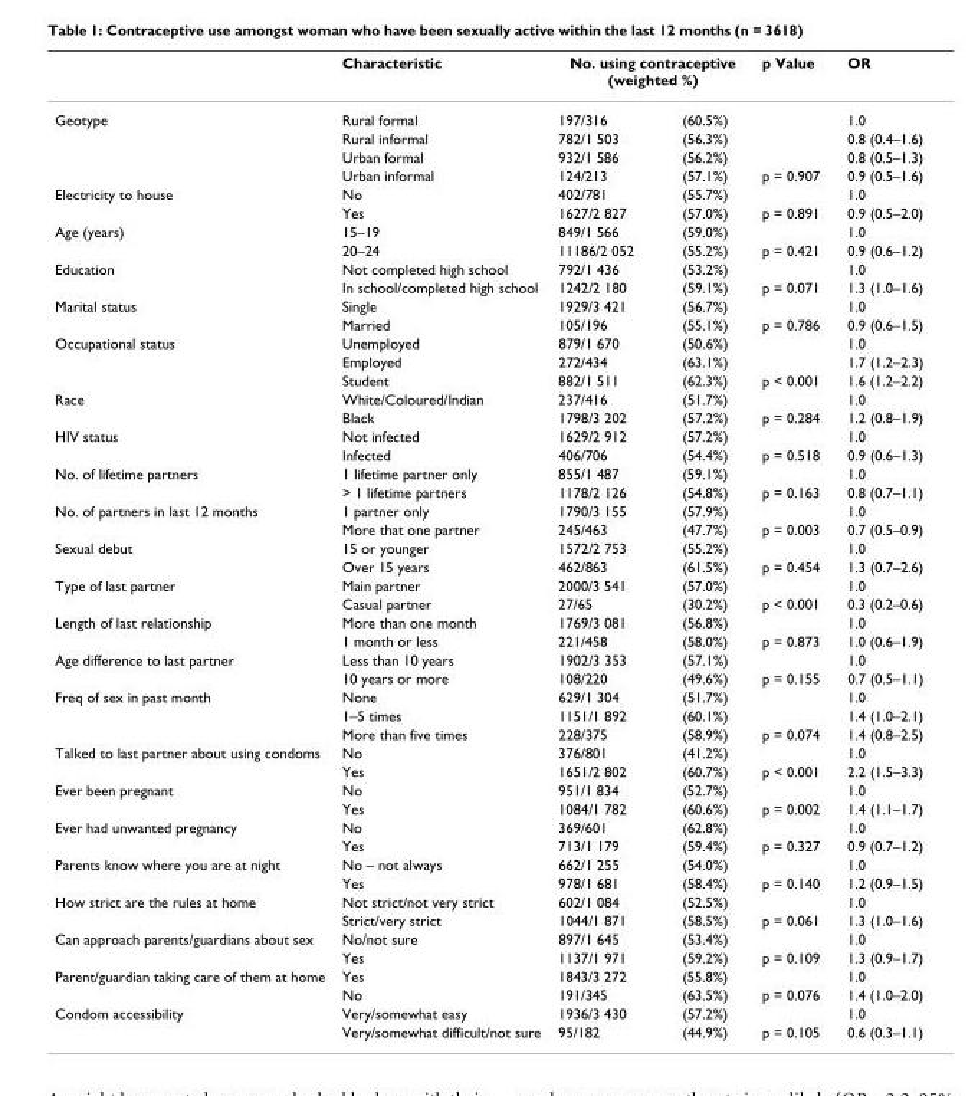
<table><thead><tr><td rowspan="2">Geotype</td><td rowspan="2">Characteristic Rural formal</td><td colspan="2">No. using contraceptive (weighted %)</td><td rowspan="2">p Value</td><td rowspan="2">OR 1.0</td></tr><tr><td>197/316</td><td>(60.5%)</td></tr></thead><tbody><tr><td></td><td>Rural informal</td><td>782/1 503</td><td>(56.3%)</td><td></td><td>0.8 (0.4–1.6)</td></tr><tr><td></td><td>Urban formal</td><td>932/1 586</td><td>(56.2%)</td><td></td><td>0.8 (0.5–1.3)</td></tr><tr><td></td><td>Urban informal</td><td>124/213</td><td>(57.1%)</td><td>p = 0.907</td><td>0.9 (0.5–1.6)</td></tr><tr><td rowspan="2">Electricity to house</td><td>No</td><td>402/781</td><td>(55.7%)</td><td></td><td>1.0</td></tr><tr><td>Yes</td><td>1627/2 827</td><td>(57.0%)</td><td>p = 0.891</td><td>0.9 (0.5–2.0)</td></tr><tr><td rowspan="2">Age (years)</td><td>15–19</td><td>849/1 566</td><td>(59.0%)</td><td></td><td>1.0</td></tr><tr><td>20–24</td><td>11186/2 052</td><td>(55.2%)</td><td>p = 0.421</td><td>0.9 (0.6–1.2)</td></tr><tr><td rowspan="2">Education</td><td>Not completed high school</td><td>792/1 436</td><td>(53.2%)</td><td></td><td>1.0</td></tr><tr><td>In school/completed high school</td><td>1242/2 180</td><td>(59.1%)</td><td>p = 0.071</td><td>1.3 (1.0–1.6)</td></tr><tr><td rowspan="2">Marital status</td><td>Single</td><td>1929/3 421</td><td>(56.7%)</td><td></td><td>1.0</td></tr><tr><td>Married</td><td>105/196</td><td>(55.1%)</td><td>p = 0.786</td><td>0.9 (0.6–1.5)</td></tr><tr><td rowspan="3">Occupational status</td><td>Unemployed</td><td>879/1 670</td><td>(50.6%)</td><td></td><td>1.0</td></tr><tr><td>Employed</td><td>272/434</td><td>(63.1%)</td><td></td><td>1.7 (1.2–2.3)</td></tr><tr><td>Student</td><td>882/1 511</td><td>(62.3%)</td><td>p &lt; 0.001</td><td>1.6 (1.2–2.2)</td></tr><tr><td rowspan="2">Race</td><td>White/Coloured/Indian</td><td>237/416</td><td>(51.7%)</td><td></td><td>1.0</td></tr><tr><td>Black</td><td>1798/3 202</td><td>(57.2%)</td><td>p = 0.284</td><td>1.2 (0.8–1.9)</td></tr><tr><td rowspan="2">HIV status</td><td>Not infected</td><td>1629/2 912</td><td>(57.2%)</td><td></td><td>1.0</td></tr><tr><td>Infected</td><td>406/706</td><td>(54.4%)</td><td>p = 0.518</td><td>0.9 (0.6–1.3)</td></tr><tr><td rowspan="2">No. of lifetime partners</td><td>1 lifetime partner only</td><td>855/1 487</td><td>(59.1%)</td><td></td><td>1.0</td></tr><tr><td>&gt; 1 lifetime partners</td><td>1178/2 126</td><td>(54.8%)</td><td>p = 0.163</td><td>0.8 (0.7–1.1)</td></tr><tr><td rowspan="2">No. of partners in last 12 months</td><td>1 partner only</td><td>1790/3 155</td><td>(57.9%)</td><td></td><td>1.0</td></tr><tr><td>More that one partner</td><td>245/463</td><td>(47.7%)</td><td>p = 0.003</td><td>0.7 (0.5–0.9)</td></tr><tr><td rowspan="2">Sexual debut</td><td>15 or younger</td><td>1572/2 753</td><td>(55.2%)</td><td></td><td>1.0</td></tr><tr><td>Over 15 years</td><td>462/863</td><td>(61.5%)</td><td>p = 0.454</td><td>1.3 (0.7–2.6)</td></tr><tr><td rowspan="2">Type of last partner</td><td>Main partner</td><td>2000/3 541</td><td>(57.0%)</td><td></td><td>1.0</td></tr><tr><td>Casual partner</td><td>27/65</td><td>(30.2%)</td><td>p &lt; 0.001</td><td>0.3 (0.2–0.6)</td></tr><tr><td rowspan="2">Length of last relationship</td><td>More than one month</td><td>1769/3 081</td><td>(56.8%)</td><td></td><td>1.0</td></tr><tr><td>1 month or less</td><td>221/458</td><td>(58.0%)</td><td>p = 0.873</td><td>1.0 (0.6–1.9)</td></tr><tr><td rowspan="2">Age difference to last partner</td><td>Less than 10 years</td><td>1902/3 353</td><td>(57.1%)</td><td></td><td>1.0</td></tr><tr><td>10 years or more</td><td>108/220</td><td>(49.6%)</td><td>p = 0.155</td><td>0.7 (0.5–1.1)</td></tr><tr><td rowspan="3">Freq of sex in past month</td><td>None</td><td>629/1 304</td><td>(51.7%)</td><td></td><td>1.0</td></tr><tr><td>1–5 times</td><td>1151/1 892</td><td>(60.1%)</td><td></td><td>1.4 (1.0–2.1)</td></tr><tr><td>More than five times</td><td>228/375</td><td>(58.9%)</td><td>p = 0.074</td><td>1.4 (0.8–2.5)</td></tr><tr><td rowspan="2">Talked to last partner about using condoms</td><td>No</td><td>376/801</td><td>(41.2%)</td><td></td><td>1.0</td></tr><tr><td>Yes</td><td>1651/2 802</td><td>(60.7%)</td><td>p &lt; 0.001</td><td>2.2 (1.5–3.3)</td></tr><tr><td rowspan="2">Ever been pregnant</td><td>No</td><td>951/1 834</td><td>(52.7%)</td><td></td><td>1.0</td></tr><tr><td>Yes</td><td>1084/1 782</td><td>(60.6%)</td><td>p = 0.002</td><td>1.4 (1.1–1.7)</td></tr><tr><td rowspan="2">Ever had unwanted pregnancy</td><td>No</td><td>369/601</td><td>(62.8%)</td><td></td><td>1.0</td></tr><tr><td>Yes</td><td>713/1 179</td><td>(59.4%)</td><td>p = 0.327</td><td>0.9 (0.7–1.2)</td></tr><tr><td rowspan="2">Parents know where you are at night</td><td>No – not always</td><td>662/1 255</td><td>(54.0%)</td><td></td><td>1.0</td></tr><tr><td>Yes</td><td>978/1 681</td><td>(58.4%)</td><td>p = 0.140</td><td>1.2 (0.9–1.5)</td></tr><tr><td rowspan="2">How strict are the rules at home</td><td>Not strict/not very strict</td><td>602/1 084</td><td>(52.5%)</td><td></td><td>1.0</td></tr><tr><td>Strict/very strict</td><td>1044/1 871</td><td>(58.5%)</td><td>p = 0.061</td><td>1.3 (1.0–1.6)</td></tr><tr><td rowspan="2">Can approach parents/guardians about sex</td><td>No/not sure</td><td>897/1 645</td><td>(53.4%)</td><td></td><td>1.0</td></tr><tr><td>Yes</td><td>1137/1 971</td><td>(59.2%)</td><td>p = 0.109</td><td>1.3 (0.9–1.7)</td></tr><tr><td rowspan="2">Parent/guardian taking care of them at home</td><td>Yes</td><td>1843/3 272</td><td>(55.8%)</td><td></td><td>1.0</td></tr><tr><td>No</td><td>191/345</td><td>(63.5%)</td><td>p = 0.076</td><td>1.4 (1.0–2.0)</td></tr><tr><td rowspan="2">Condom accessibility</td><td>Very/somewhat easy</td><td>1936/3 430</td><td>(57.2%)</td><td></td><td>1.0</td></tr><tr><td>Very/somewhat difficult/not sure</td><td>95/182</td><td>(44.9%)</td><td>p = 0.105</td><td>0.6 (0.3–1.1)</td></tr></tbody></table>